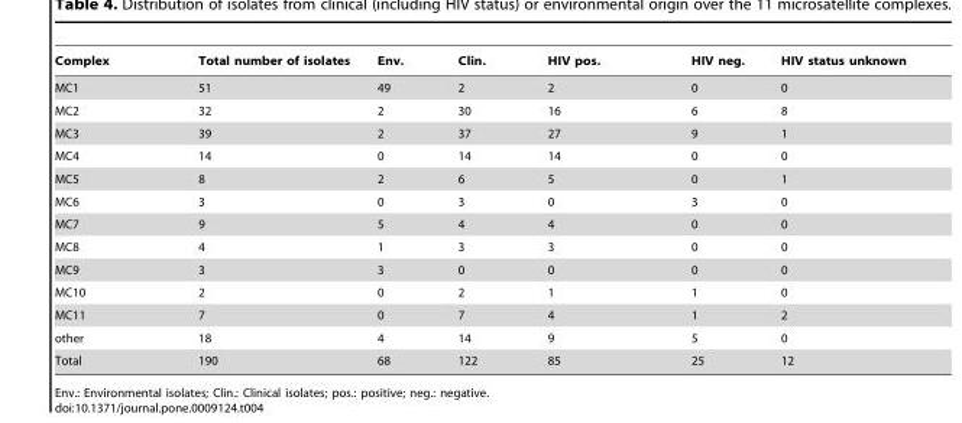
<table><thead><tr><td>Complex</td><td>Total number of isolates</td><td>Env.</td><td>Clin.</td><td>HIV pos.</td><td>HIV neg.</td><td>HIV status unknown</td></tr></thead><tbody><tr><td>MC1</td><td>51</td><td>49</td><td>2</td><td>2</td><td>0</td><td>0</td></tr><tr><td>MC2</td><td>32</td><td>2</td><td>30</td><td>16</td><td>6</td><td>8</td></tr><tr><td>MC3</td><td>39</td><td>2</td><td>37</td><td>27</td><td>9</td><td>1</td></tr><tr><td>MC4</td><td>14</td><td>0</td><td>14</td><td>14</td><td>0</td><td>0</td></tr><tr><td>MC5</td><td>8</td><td>2</td><td>6</td><td>5</td><td>0</td><td>1</td></tr><tr><td>MC6</td><td>3</td><td>0</td><td>3</td><td>0</td><td>3</td><td>0</td></tr><tr><td>MC7</td><td>9</td><td>5</td><td>4</td><td>4</td><td>0</td><td>0</td></tr><tr><td>MC8</td><td>4</td><td>1</td><td>3</td><td>3</td><td>0</td><td>0</td></tr><tr><td>MC9</td><td>3</td><td>3</td><td>0</td><td>0</td><td>0</td><td>0</td></tr><tr><td>MC10</td><td>2</td><td>0</td><td>2</td><td>1</td><td>1</td><td>0</td></tr><tr><td>MC11</td><td>7</td><td>0</td><td>7</td><td>4</td><td>1</td><td>2</td></tr><tr><td>other</td><td>18</td><td>4</td><td>14</td><td>9</td><td>5</td><td>0</td></tr><tr><td>Total</td><td>190</td><td>68</td><td>122</td><td>85</td><td>25</td><td>12</td></tr></tbody></table>